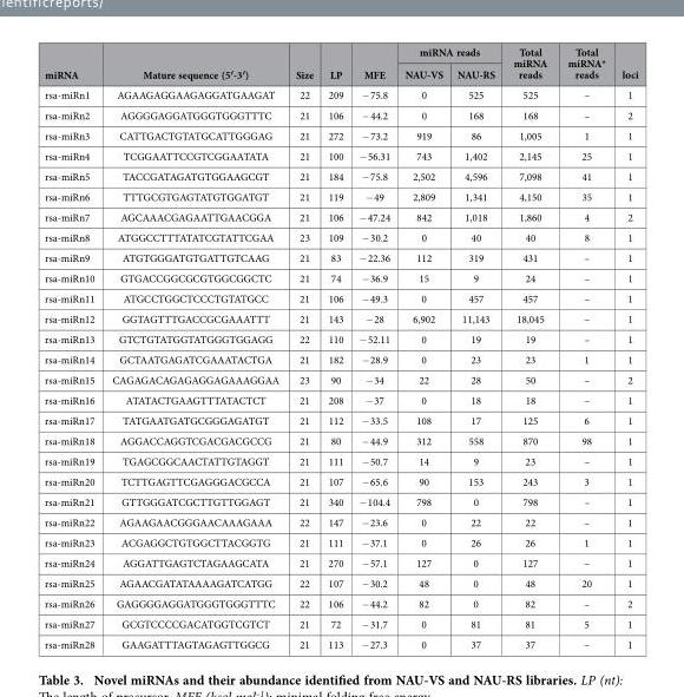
<table><thead><tr><td rowspan="2">miRNA</td><td rowspan="2">Mature sequence (5′-3′)</td><td rowspan="2">Size</td><td rowspan="2">LP</td><td rowspan="2">MFE</td><td colspan="2">miRNA reads</td><td rowspan="2">Total miRNA reads</td><td rowspan="2">Total miRNA* reads</td><td rowspan="2">loci</td></tr><tr><td>NAU-VS</td><td>NAU-RS</td></tr></thead><tbody><tr><td>rsa-miRn1</td><td>AGAAGAGGAAGAGGATGAAGAT</td><td>22</td><td>209</td><td>− 75.8</td><td>0</td><td>525</td><td>525</td><td>–</td><td>1</td></tr><tr><td>rsa-miRn2</td><td>AGGGGAGGATGGGTGGGTTTC</td><td>21</td><td>106</td><td>− 44.2</td><td>0</td><td>168</td><td>168</td><td>–</td><td>2</td></tr><tr><td>rsa-miRn3</td><td>CATTGACTGTATGCATTGGGAG</td><td>21</td><td>272</td><td>− 73.2</td><td>919</td><td>86</td><td>1,005</td><td>1</td><td>1</td></tr><tr><td>rsa-miRn4</td><td>TCGGAATTCCGTCGGAATATA</td><td>21</td><td>100</td><td>− 56.31</td><td>743</td><td>1,402</td><td>2,145</td><td>25</td><td>1</td></tr><tr><td>rsa-miRn5</td><td>TACCGATAGATGTGGAAGCGT</td><td>21</td><td>184</td><td>− 75.8</td><td>2,502</td><td>4,596</td><td>7,098</td><td>41</td><td>1</td></tr><tr><td>rsa-miRn6</td><td>TTTGCGTGAGTATGTGGATGT</td><td>21</td><td>119</td><td>− 49</td><td>2,809</td><td>1,341</td><td>4,150</td><td>35</td><td>1</td></tr><tr><td>rsa-miRn7</td><td>AGCAAACGAGAATTGAACGGA</td><td>21</td><td>106</td><td>− 47.24</td><td>842</td><td>1,018</td><td>1,860</td><td>4</td><td>2</td></tr><tr><td>rsa-miRn8</td><td>ATGGCCTTTATATCGTATTCGAA</td><td>23</td><td>109</td><td>− 30.2</td><td>0</td><td>40</td><td>40</td><td>8</td><td>1</td></tr><tr><td>rsa-miRn9</td><td>ATGTGGGATGTGATTGTCAAG</td><td>21</td><td>83</td><td>− 22.36</td><td>112</td><td>319</td><td>431</td><td>–</td><td>1</td></tr><tr><td>rsa-miRn10</td><td>GTGACCGGCGCGTGGCGGCTC</td><td>21</td><td>74</td><td>− 36.9</td><td>15</td><td>9</td><td>24</td><td>–</td><td>1</td></tr><tr><td>rsa-miRn11</td><td>ATGCCTGGCTCCCTGTATGCC</td><td>21</td><td>106</td><td>− 49.3</td><td>0</td><td>457</td><td>457</td><td>–</td><td>1</td></tr><tr><td>rsa-miRn12</td><td>GGTAGTTTGACCGCGAAATTT</td><td>21</td><td>143</td><td>− 28</td><td>6,902</td><td>11,143</td><td>18,045</td><td>–</td><td>1</td></tr><tr><td>rsa-miRn13</td><td>GTCTGTATGGTATGGGTGGAGG</td><td>22</td><td>110</td><td>− 52.11</td><td>0</td><td>19</td><td>19</td><td>–</td><td>1</td></tr><tr><td>rsa-miRn14</td><td>GCTAATGAGATCGAAATACTGA</td><td>21</td><td>182</td><td>− 28.9</td><td>0</td><td>23</td><td>23</td><td>1</td><td>1</td></tr><tr><td>rsa-miRn15</td><td>CAGAGACAGAGAGGAGAAAGGAA</td><td>23</td><td>90</td><td>− 34</td><td>22</td><td>28</td><td>50</td><td>–</td><td>2</td></tr><tr><td>rsa-miRn16</td><td>ATATACTGAAGTTTATACTCT</td><td>21</td><td>208</td><td>− 37</td><td>0</td><td>18</td><td>18</td><td>–</td><td>1</td></tr><tr><td>rsa-miRn17</td><td>TATGAATGATGCGGGAGATGT</td><td>21</td><td>112</td><td>− 33.5</td><td>108</td><td>17</td><td>125</td><td>6</td><td>1</td></tr><tr><td>rsa-miRn18</td><td>AGGACCAGGTCGACGACGCCG</td><td>21</td><td>80</td><td>− 44.9</td><td>312</td><td>558</td><td>870</td><td>98</td><td>1</td></tr><tr><td>rsa-miRn19</td><td>TGAGCGGCAACTATTGTAGGT</td><td>21</td><td>111</td><td>− 50.7</td><td>14</td><td>9</td><td>23</td><td>–</td><td>1</td></tr><tr><td>rsa-miRn20</td><td>TCTTGAGTTCGAGGGACGCCA</td><td>21</td><td>107</td><td>− 65.6</td><td>90</td><td>153</td><td>243</td><td>3</td><td>1</td></tr><tr><td>rsa-miRn21</td><td>GTTGGGATCGCTTGTTGGAGT</td><td>21</td><td>340</td><td>− 104.4</td><td>798</td><td>0</td><td>798</td><td>–</td><td>1</td></tr><tr><td>rsa-miRn22</td><td>AGAAGAACGGGAACAAAGAAA</td><td>22</td><td>147</td><td>− 23.6</td><td>0</td><td>22</td><td>22</td><td>–</td><td>1</td></tr><tr><td>rsa-miRn23</td><td>ACGAGGCTGTGGCTTACGGTG</td><td>21</td><td>111</td><td>− 37.1</td><td>0</td><td>26</td><td>26</td><td>1</td><td>1</td></tr><tr><td>rsa-miRn24</td><td>AGGATTGAGTCTAGAAGCATA</td><td>21</td><td>270</td><td>− 57.1</td><td>127</td><td>0</td><td>127</td><td>–</td><td>1</td></tr><tr><td>rsa-miRn25</td><td>AGAACGATATAAAAGATCATGG</td><td>22</td><td>107</td><td>− 30.2</td><td>48</td><td>0</td><td>48</td><td>20</td><td>1</td></tr><tr><td>rsa-miRn26</td><td>GAGGGGAGGATGGGTGGGTTTC</td><td>22</td><td>106</td><td>− 44.2</td><td>82</td><td>0</td><td>82</td><td>–</td><td>2</td></tr><tr><td>rsa-miRn27</td><td>GCGTCCCCGACATGGTCGTCT</td><td>21</td><td>72</td><td>− 31.7</td><td>0</td><td>81</td><td>81</td><td>5</td><td>1</td></tr><tr><td>rsa-miRn28</td><td>GAAGATTTAGTAGAGTTGGCG</td><td>21</td><td>113</td><td>− 27.3</td><td>0</td><td>37</td><td>37</td><td>–</td><td>1</td></tr></tbody></table>